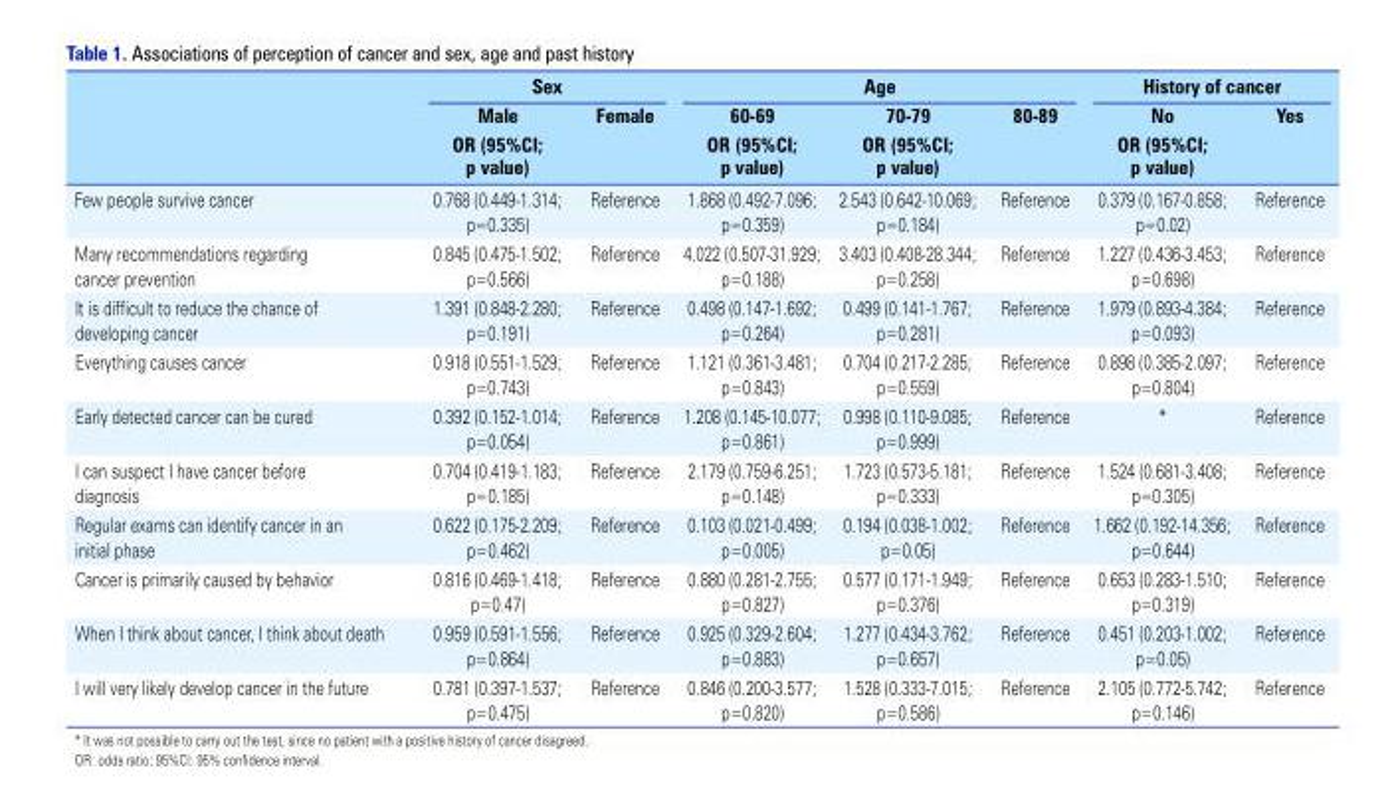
<table><thead><tr><td rowspan="2"></td><td colspan="2">Sex</td><td colspan="3">Age</td><td colspan="2">History of cancer</td></tr><tr><td>Male OR (95%CI; p value)</td><td>Female</td><td>60-69 OR (95%CI; p value)</td><td>70-79 OR (95%CI; p value)</td><td>80-89</td><td>No OR (95%CI; p value)</td><td>Yes</td></tr></thead><tbody><tr><td>Few people survive cancer</td><td>0.768 (0.449-1.314; p=0.335)</td><td>Reference</td><td>1.868 (0.492-7.096; p=0.359)</td><td>2.543 (0.642-10.069; p=0.184)</td><td>Reference</td><td>0.379 (0.167-0.858; p=0.02)</td><td>Reference</td></tr><tr><td>Many recommendations regarding cancer prevention</td><td>0.845 (0.475-1.502; p=0.566)</td><td>Reference</td><td>4.022 (0.507-31.929; p=0.188)</td><td>3.403 (0.408-28.344; p=0.258)</td><td>Reference</td><td>1.227 (0.436-3.453; p=0.698)</td><td>Reference</td></tr><tr><td>It is difficult to reduce the chance of developing cancer</td><td>1.391 (0.848-2.280; p=0.191)</td><td>Reference</td><td>0.498 (0.147-1.692; p=0.264)</td><td>0.499 (0.141-1.767; p=0.281)</td><td>Reference</td><td>1.979 (0.893-4.384; p=0.093)</td><td>Reference</td></tr><tr><td>Everything causes cancer</td><td>0.918 (0.551-1.529; p=0.743)</td><td>Reference</td><td>1.121 (0.361-3.481; p=0.843)</td><td>0.704 (0.217-2.285; p=0.559)</td><td>Reference</td><td>0.898 (0.385-2.097; p=0.804)</td><td>Reference</td></tr><tr><td>Early detected cancer can be cured</td><td>0.392 (0.152-1.014; p=0.054)</td><td>Reference</td><td>1.208 (0.145-10.077; p=0.861)</td><td>0.998 (0.110-9.085; p=0.999)</td><td>Reference</td><td>*</td><td>Reference</td></tr><tr><td>I can suspect I have cancer before diagnosis</td><td>0.704 (0.419-1.183; p=0.185)</td><td>Reference</td><td>2.179 (0.759-6.251; p=0.148)</td><td>1.723 (0.573-5.181; p=0.333)</td><td>Reference</td><td>1.524 (0.681-3.408; p=0.305)</td><td>Reference</td></tr><tr><td>Regular exams can identify cancer in an initial phase</td><td>0.622 (0.175-2.209; p=0.462)</td><td>Reference</td><td>0.103 (0.021-0.499; p=0.005)</td><td>0.194 (0.038-1.002; p=0.05)</td><td>Reference</td><td>1.662 (0.192-14.356; p=0.644)</td><td>Reference</td></tr><tr><td>Cancer is primarily caused by behavior</td><td>0.816 (0.469-1.418; p=0.47)</td><td>Reference</td><td>0.880 (0.281-2.755; p=0.827)</td><td>0.577 (0.171-1.949; p=0.376)</td><td>Reference</td><td>0.653 (0.283-1.510; p=0.319)</td><td>Reference</td></tr><tr><td>When I think about cancer, I think about death</td><td>0.959 (0.591-1.556; p=0.864)</td><td>Reference</td><td>0.925 (0.329-2.604; p=0.883)</td><td>1.277 (0.434-3.762; p=0.657)</td><td>Reference</td><td>0.451 (0.203-1.002; p=0.05)</td><td>Reference</td></tr><tr><td>I will very likely develop cancer in the future</td><td>0.781 (0.397-1.537; p=0.475)</td><td>Reference</td><td>0.846 (0.200-3.577; p=0.820)</td><td>1.528 (0.333-7.015; p=0.586)</td><td>Reference</td><td>2.105 (0.772-5.742; p=0.146)</td><td>Reference</td></tr></tbody></table>